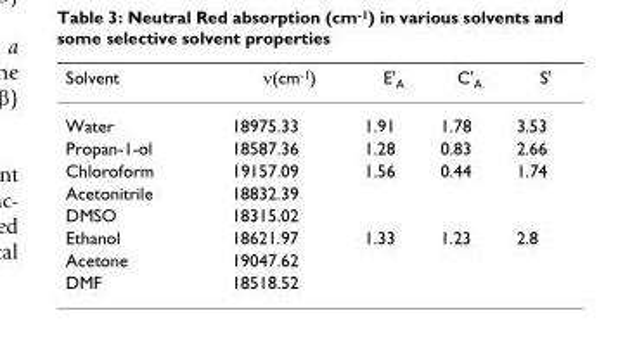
<table><thead><tr><td>Solvent</td><td>ν(cm<sup>-1</sup>)</td><td>E&#x27;<sub>A</sub></td><td>C&#x27;<sub>A</sub></td><td>S&#x27;</td></tr></thead><tbody><tr><td>Water</td><td>18975.33</td><td>1.91</td><td>1.78</td><td>3.53</td></tr><tr><td>Propan-1-ol</td><td>18587.36</td><td>1.28</td><td>0.83</td><td>2.66</td></tr><tr><td>Chloroform</td><td>19157.09</td><td>1.56</td><td>0.44</td><td>1.74</td></tr><tr><td>Acetonitrile</td><td>18832.39</td><td></td><td></td><td></td></tr><tr><td>DMSO</td><td>18315.02</td><td></td><td></td><td></td></tr><tr><td>Ethanol</td><td>18621.97</td><td>1.33</td><td>1.23</td><td>2.8</td></tr><tr><td>Acetone</td><td>19047.62</td><td></td><td></td><td></td></tr><tr><td>DMF</td><td>18518.52</td><td></td><td></td><td></td></tr></tbody></table>